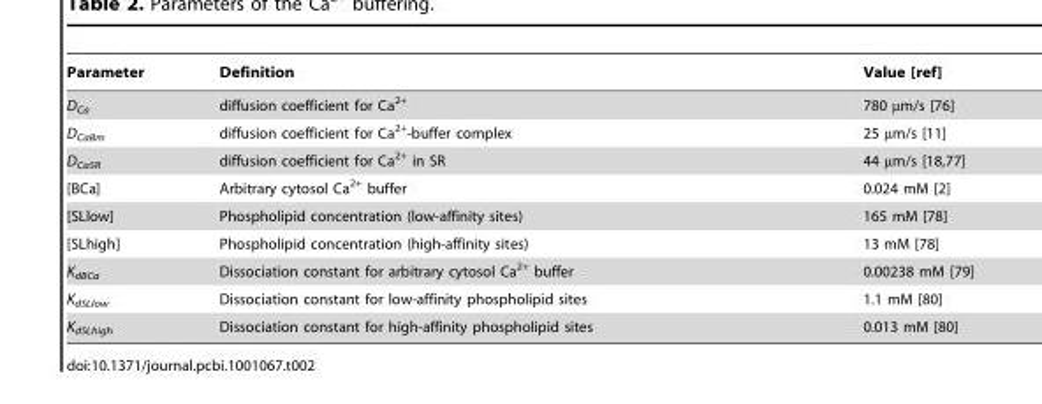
<table><thead><tr><td>Parameter</td><td>Definition</td><td>Value [ref]</td></tr></thead><tbody><tr><td>D<sub>Ca</sub></td><td>diffusion coefficient for Ca<sup>2+</sup></td><td>780 µm/s [76]</td></tr><tr><td>D<sub>CaBm</sub></td><td>diffusion coefficient for Ca<sup>2+</sup>-buffer complex</td><td>25 µm/s [11]</td></tr><tr><td>D<sub>CaSR</sub></td><td>diffusion coefficient for Ca<sup>2+</sup> in SR</td><td>44 mm/s [18,77]</td></tr><tr><td>[BCa]</td><td>Arbitrary cytosol Ca<sup>2+</sup> buffer</td><td>0.024 mM [2]</td></tr><tr><td>[SLlow]</td><td>Phospholipid concentration (low-affinity sites)</td><td>165 mM [78]</td></tr><tr><td>[SLhigh]</td><td>Phospholipid concentration (high-affinity sites)</td><td>13 mM [78]</td></tr><tr><td>K<sub>dBCa</sub></td><td>Dissociation constant for arbitrary cytosol Ca<sup>2+</sup> buffer</td><td>0.00238 mM [79]</td></tr><tr><td>K<sub>dSLlow</sub></td><td>Dissociation constant for low-affinity phospholipid sites</td><td>1.1 mM [80]</td></tr><tr><td>K<sub>dSLhigh</sub></td><td>Dissociation constant for high-affinity phospholipid sites</td><td>0.013 mM [80]</td></tr></tbody></table>